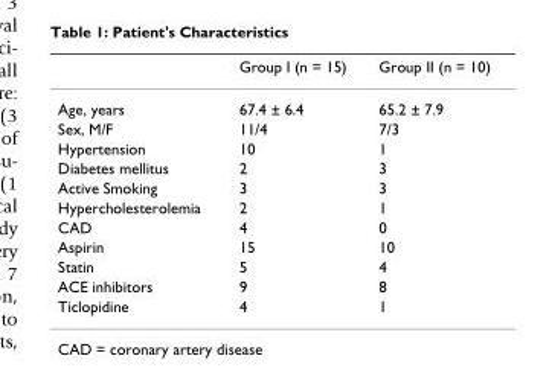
<table><thead><tr><td></td><td>Group I (n = 15)</td><td>Group II (n = 10)</td></tr></thead><tbody><tr><td>Age, years</td><td>67.4 ± 6.4</td><td>65.2 ± 7.9</td></tr><tr><td>Sex, M/F</td><td>11/4</td><td>7/3</td></tr><tr><td>Hypertension</td><td>10</td><td>1</td></tr><tr><td>Diabetes mellitus</td><td>2</td><td>3</td></tr><tr><td>Active Smoking</td><td>3</td><td>3</td></tr><tr><td>Hypercholesterolemia</td><td>2</td><td>1</td></tr><tr><td>CAD</td><td>4</td><td>0</td></tr><tr><td>Aspirin</td><td>15</td><td>10</td></tr><tr><td>Statin</td><td>5</td><td>4</td></tr><tr><td>ACE inhibitors</td><td>9</td><td>8</td></tr><tr><td>Ticlopidine</td><td>4</td><td>1</td></tr></tbody></table>